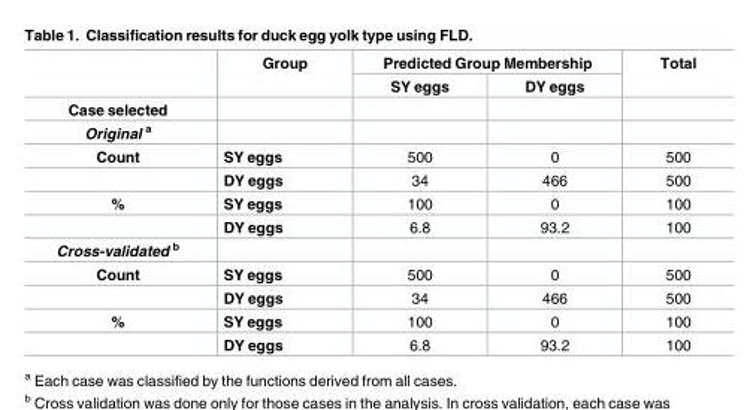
<table><thead><tr><td rowspan="2"></td><td rowspan="2">Group</td><td colspan="2">Predicted Group Membership</td><td rowspan="2">Total</td></tr><tr><td>SY eggs</td><td>DY eggs</td></tr></thead><tbody><tr><td colspan="5">Case selected</td></tr><tr><td colspan="5">Original <sup>a</sup></td></tr><tr><td rowspan="2">Count</td><td>SY eggs</td><td>500</td><td>0</td><td>500</td></tr><tr><td>DY eggs</td><td>34</td><td>466</td><td>500</td></tr><tr><td rowspan="2">%</td><td>SY eggs</td><td>100</td><td>0</td><td>100</td></tr><tr><td>DY eggs</td><td>6.8</td><td>93.2</td><td>100</td></tr><tr><td colspan="5">Cross-validated <sup>b</sup></td></tr><tr><td rowspan="2">Count</td><td>SY eggs</td><td>500</td><td>0</td><td>500</td></tr><tr><td>DY eggs</td><td>34</td><td>466</td><td>500</td></tr><tr><td rowspan="2">%</td><td>SY eggs</td><td>100</td><td>0</td><td>100</td></tr><tr><td>DY eggs</td><td>6.8</td><td>93.2</td><td>100</td></tr></tbody></table>